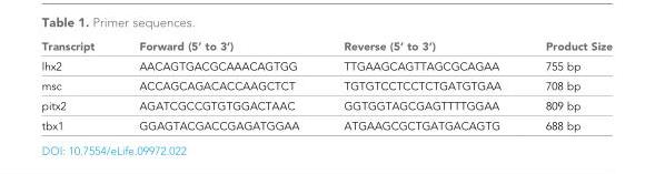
<table><thead><tr><td>Transcript</td><td>Forward (5’ to 3’)</td><td>Reverse (5’ to 3’)</td><td>Product Size</td></tr></thead><tbody><tr><td>lhx2</td><td>AACAGTGACGCAAACAGTGG</td><td>TTGAAGCAGTTAGCGCAGAA</td><td>755 bp</td></tr><tr><td>msc</td><td>ACCAGCAGACACCAAGCTCT</td><td>TGTGTCCTCCTCTGATGTGAA</td><td>708 bp</td></tr><tr><td>pitx2</td><td>AGATCGCCGTGTGGACTAAC</td><td>GGTGGTAGCGAGTTTTGGAA</td><td>809 bp</td></tr><tr><td>tbx1</td><td>GGAGTACGACCGAGATGGAA</td><td>ATGAAGCGCTGATGACAGTG</td><td>688 bp</td></tr></tbody></table>